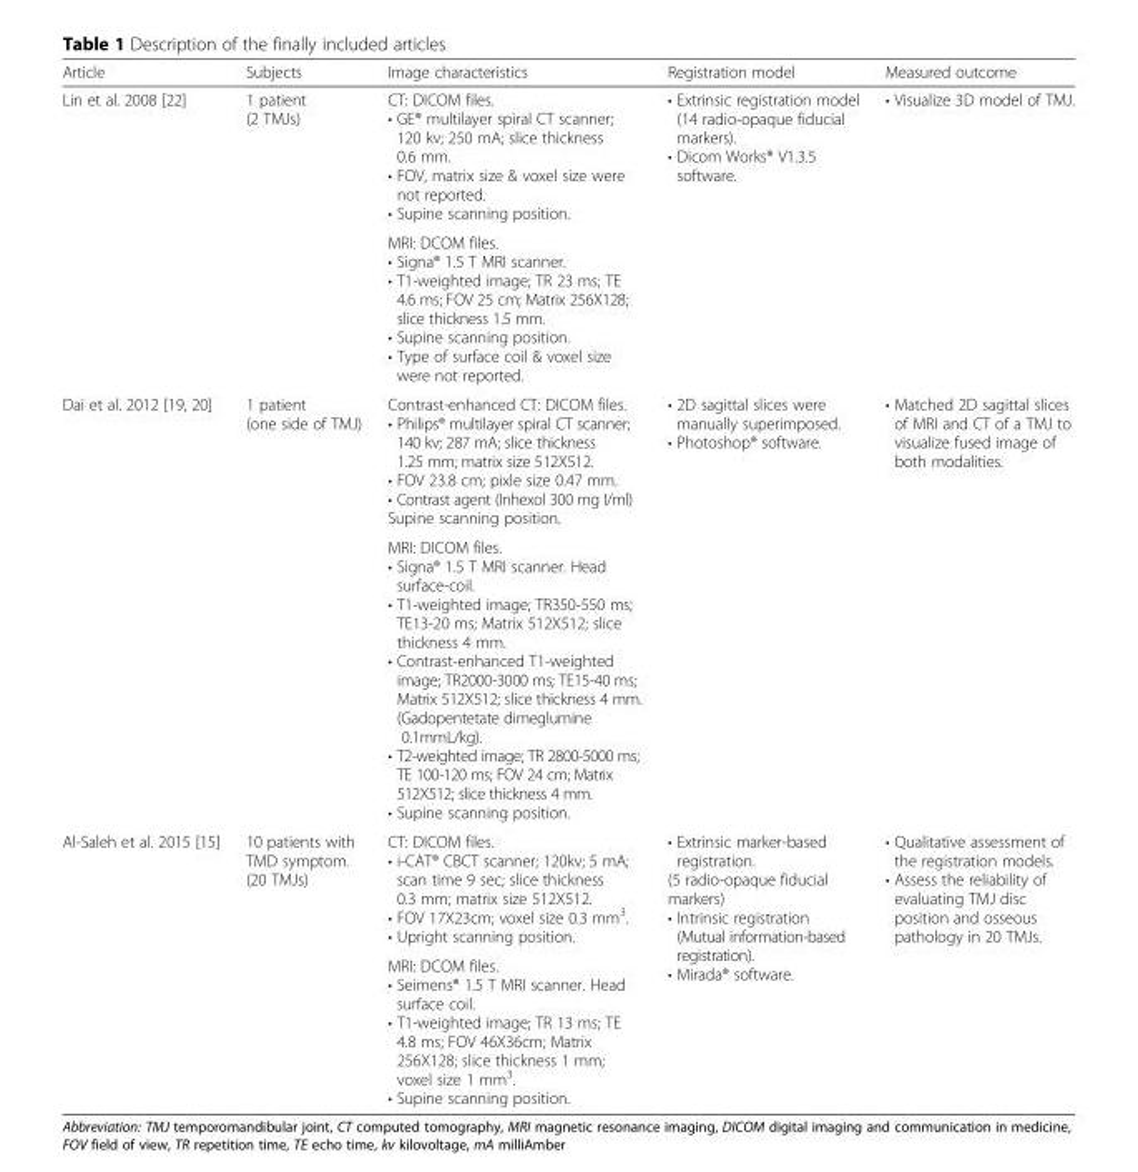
<table><thead><tr><td>Article</td><td>Subjects</td><td>Image characteristics</td><td>Registration model</td><td>Measured outcome</td></tr></thead><tbody><tr><td rowspan="2">Lin et al. 2008 [22]</td><td rowspan="2">1 patient (2 TMJs)</td><td>CT: DICOM files. • GE® multilayer spiral CT scanner; 120 kv; 250 mA; slice thickness 0.6 mm. • FOV, matrix size &amp; voxel size were not reported. • Supine scanning position.</td><td rowspan="2">• Extrinsic registration model (14 radio-opaque fiducial markers). • Dicom Works® V1.3.5 software.</td><td rowspan="2">• Visualize 3D model of TMJ.</td></tr><tr><td>MRI: DCOM files. • Signa® 1.5 T MRI scanner. • T1-weighted image; TR 23 ms; TE 4.6 ms; FOV 25 cm; Matrix 256X128; slice thickness 1.5 mm. • Supine scanning position. • Type of surface coil &amp; voxel size were not reported.</td></tr><tr><td rowspan="2">Dai et al. 2012 [19, 20]</td><td rowspan="2">1 patient (one side of TMJ)</td><td>Contrast-enhanced CT: DICOM files. • Philips® multilayer spiral CT scanner; 140 kv; 287 mA; slice thickness 1.25 mm; matrix size 512X512. • FOV 23.8 cm; pixle size 0.47 mm. • Contrast agent (Inhexol 300 mg I/ml) Supine scanning position.</td><td rowspan="2">• 2D sagittal slices were manually superimposed. • Photoshop® software.</td><td rowspan="2">• Matched 2D sagittal slices of MRI and CT of a TMJ to visualize fused image of both modalities.</td></tr><tr><td>MRI: DICOM files. • Signa® 1.5 T MRI scanner. Head surface-coil. • T1-weighted image; TR350-550 ms; TE13-20 ms; Matrix 512X512; slice thickness 4 mm. • Contrast-enhanced T1-weighted image; TR2000-3000 ms; TE15-40 ms; Matrix 512X512; slice thickness 4 mm. (Gadopentetate dimeglumine 0.1mmL/kg). • T2-weighted image; TR 2800-5000 ms; TE 100-120 ms; FOV 24 cm; Matrix 512X512; slice thickness 4 mm. • Supine scanning position.</td></tr><tr><td rowspan="2">Al-Saleh et al. 2015 [15]</td><td rowspan="2">10 patients with TMD symptom. (20 TMJs)</td><td>CT: DICOM files. • i-CAT® CBCT scanner; 120kv; 5 mA; scan time 9 sec; slice thickness 0.3 mm; matrix size 512X512. • FOV 17X23cm; voxel size 0.3 mm<sup>3</sup>. • Upright scanning position.</td><td rowspan="2">• Extrinsic marker-based registration. (5 radio-opaque fiducial markers) • Intrinsic registration (Mutual information-based registration). • Mirada® software.</td><td rowspan="2">• Qualitative assessment of the registration models. • Assess the reliability of evaluating TMJ disc position and osseous pathology in 20 TMJs.</td></tr><tr><td>MRI: DCOM files. • Seimens® 1.5 T MRI scanner. Head surface coil. • T1-weighted image; TR 13 ms; TE 4.8 ms; FOV 46X36cm; Matrix 256X128; slice thickness 1 mm; voxel size 1 mm<sup>3</sup>. • Supine scanning position.</td></tr></tbody></table>